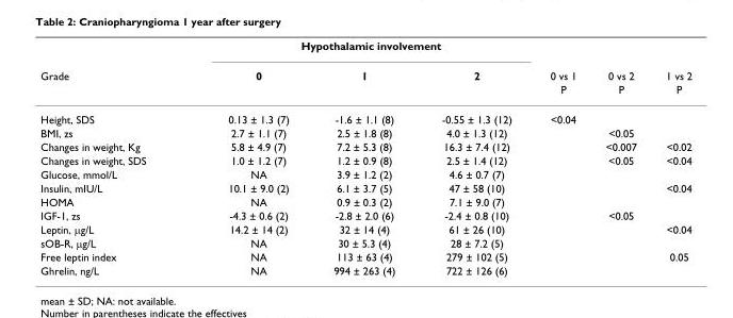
<table><thead><tr><td rowspan="3">Grade</td><td colspan="3">Hypothalamic involvement</td><td rowspan="3">0 vs 1 P</td><td rowspan="3">0 vs 2 P</td><td rowspan="3">1 vs 2 P</td></tr><tr><td rowspan="2">0</td><td rowspan="2">1</td><td rowspan="2">2</td></tr><tr></tr></thead><tbody><tr><td>Height, SDS</td><td>0.13 ± 1.3 (7)</td><td>-1.6 ± 1.1 (8)</td><td>-0.55 ± 1.3 (12)</td><td>&lt;0.04</td><td></td><td></td></tr><tr><td>BMI, zs</td><td>2.7 ± 1.1 (7)</td><td>2.5 ± 1.8 (8)</td><td>4.0 ± 1.3 (12)</td><td></td><td>&lt;0.05</td><td></td></tr><tr><td>Changes in weight, Kg</td><td>5.8 ± 4.9 (7)</td><td>7.2 ± 5.3 (8)</td><td>16.3 ± 7.4 (12)</td><td></td><td>&lt;0.007</td><td>&lt;0.02</td></tr><tr><td>Changes in weight, SDS</td><td>1.0 ± 1.2 (7)</td><td>1.2 ± 0.9 (8)</td><td>2.5 ± 1.4 (12)</td><td></td><td>&lt;0.05</td><td>&lt;0.04</td></tr><tr><td>Glucose, mmol/L</td><td>NA</td><td>3.9 ± 1.2 (2)</td><td>4.6 ± 0.7 (7)</td><td></td><td></td><td></td></tr><tr><td>Insulin, mIU/L</td><td>10.1 ± 9.0 (2)</td><td>6.1 ± 3.7 (5)</td><td>47 ± 58 (10)</td><td></td><td></td><td>&lt;0.04</td></tr><tr><td>HOMA</td><td>NA</td><td>0.9 ± 0.3 (2)</td><td>7.1 ± 9.0 (7)</td><td></td><td></td><td></td></tr><tr><td>IGF-1, zs</td><td>-4.3 ± 0.6 (2)</td><td>-2.8 ± 2.0 (6)</td><td>-2.4 ± 0.8 (10)</td><td></td><td>&lt;0.05</td><td></td></tr><tr><td>Leptin, μg/L</td><td>14.2 ± 14 (2)</td><td>32 ± 14 (4)</td><td>61 ± 26 (10)</td><td></td><td></td><td>&lt;0.04</td></tr><tr><td>sOB-R, μg/L</td><td>NA</td><td>30 ± 5.3 (4)</td><td>28 ± 7.2 (5)</td><td></td><td></td><td></td></tr><tr><td>Free leptin index</td><td>NA</td><td>113 ± 63 (4)</td><td>279 ± 102 (5)</td><td></td><td></td><td>0.05</td></tr><tr><td>Ghrelin, ng/L</td><td>NA</td><td>994 ± 263 (4)</td><td>722 ± 126 (6)</td><td></td><td></td><td></td></tr></tbody></table>